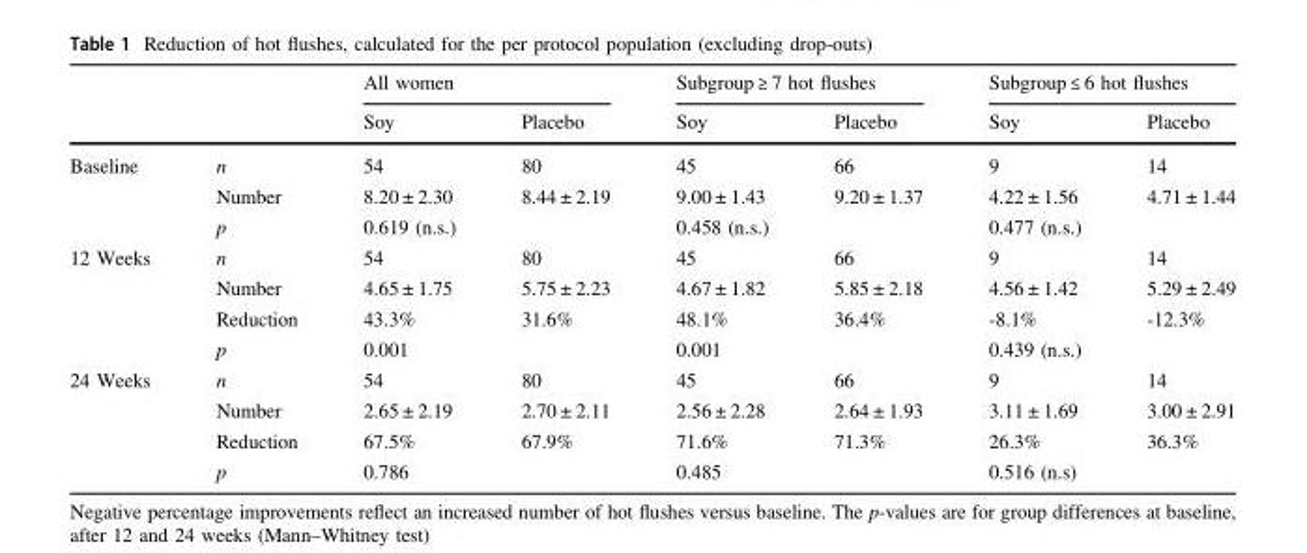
<table><thead><tr><td rowspan="2"></td><td rowspan="2"></td><td colspan="2">All women</td><td colspan="2">Subgroup ≥ 7 hot flushes</td><td colspan="2">Subgroup ≤ 6 hot flushes</td></tr><tr><td>Soy</td><td>Placebo</td><td>Soy</td><td>Placebo</td><td>Soy</td><td>Placebo</td></tr></thead><tbody><tr><td rowspan="3">Baseline</td><td>n</td><td>54</td><td>80</td><td>45</td><td>66</td><td>9</td><td>14</td></tr><tr><td>Number</td><td>8.20 ± 2.30</td><td>8.44 ± 2.19</td><td>9.00 ± 1.43</td><td>9.20 ± 1.37</td><td>4.22 ± 1.56</td><td>4.71 ± 1.44</td></tr><tr><td>p</td><td>0.619 (n.s.)</td><td></td><td>0.458 (n.s.)</td><td></td><td>0.477 (n.s.)</td><td></td></tr><tr><td rowspan="4">12 Weeks</td><td>n</td><td>54</td><td>80</td><td>45</td><td>66</td><td>9</td><td>14</td></tr><tr><td>Number</td><td>4.65 ± 1.75</td><td>5.75 ± 2.23</td><td>4.67 ± 1.82</td><td>5.85 ± 2.18</td><td>4.56 ± 1.42</td><td>5.29 ± 2.49</td></tr><tr><td>Reduction</td><td>43.3%</td><td>31.6%</td><td>48.1%</td><td>36.4%</td><td>-8.1%</td><td>-12.3%</td></tr><tr><td>p</td><td>0.001</td><td></td><td>0.001</td><td></td><td>0.439 (n.s.)</td><td></td></tr><tr><td rowspan="4">24 Weeks</td><td>n</td><td>54</td><td>80</td><td>45</td><td>66</td><td>9</td><td>14</td></tr><tr><td>Number</td><td>2.65 ± 2.19</td><td>2.70 ± 2.11</td><td>2.56 ± 2.28</td><td>2.64 ± 1.93</td><td>3.11 ± 1.69</td><td>3.00 ± 2.91</td></tr><tr><td>Reduction</td><td>67.5%</td><td>67.9%</td><td>71.6%</td><td>71.3%</td><td>26.3%</td><td>36.3%</td></tr><tr><td>p</td><td>0.786</td><td></td><td>0.485</td><td></td><td>0.516 (n.s)</td><td></td></tr></tbody></table>